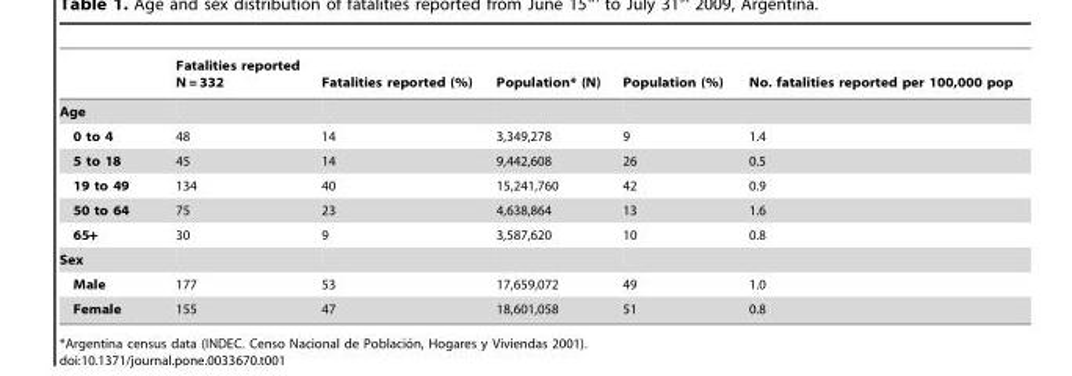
<table><thead><tr><td></td><td>Fatalities reported N = 332</td><td>Fatalities reported (%)</td><td>Population* (N)</td><td>Population (%)</td><td>No. fatalities reported per 100,000 pop</td></tr></thead><tbody><tr><td colspan="6">Age</td></tr><tr><td>0 to 4</td><td>48</td><td>14</td><td>3,349,278</td><td>9</td><td>1.4</td></tr><tr><td>5 to 18</td><td>45</td><td>14</td><td>9,442,608</td><td>26</td><td>0.5</td></tr><tr><td>19 to 49</td><td>134</td><td>40</td><td>15,241,760</td><td>42</td><td>0.9</td></tr><tr><td>50 to 64</td><td>75</td><td>23</td><td>4,638,864</td><td>13</td><td>1.6</td></tr><tr><td>65+</td><td>30</td><td>9</td><td>3,587,620</td><td>10</td><td>0.8</td></tr><tr><td colspan="6">Sex</td></tr><tr><td>Male</td><td>177</td><td>53</td><td>17,659,072</td><td>49</td><td>1.0</td></tr><tr><td>Female</td><td>155</td><td>47</td><td>18,601,058</td><td>51</td><td>0.8</td></tr></tbody></table>